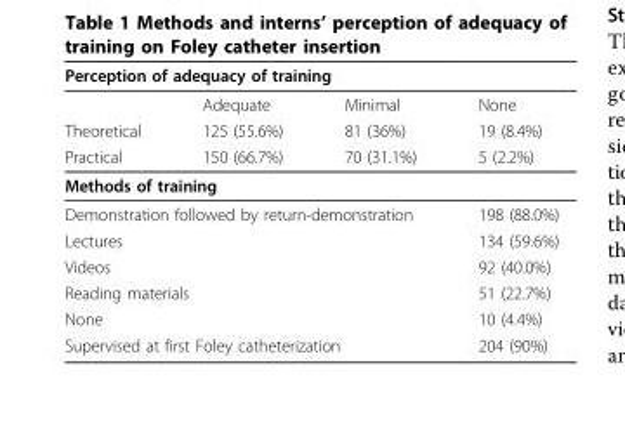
<table><thead><tr><td colspan="4">Perception of adequacy of training</td></tr><tr><td></td><td>Adequate</td><td>Minimal</td><td>None</td></tr></thead><tbody><tr><td>Theoretical</td><td>125 (55.6%)</td><td>81 (36%)</td><td>19 (8.4%)</td></tr><tr><td>Practical</td><td>150 (66.7%)</td><td>70 (31.1%)</td><td>5 (2.2%)</td></tr><tr><td colspan="4">Methods of training</td></tr><tr><td colspan="3">Demonstration followed by return-demonstration</td><td>198 (88.0%)</td></tr><tr><td colspan="3">Lectures</td><td>134 (59.6%)</td></tr><tr><td colspan="3">Videos</td><td>92 (40.0%)</td></tr><tr><td colspan="3">Reading materials</td><td>51 (22.7%)</td></tr><tr><td colspan="3">None</td><td>10 (4.4%)</td></tr><tr><td colspan="3">Supervised at first Foley catheterization</td><td>204 (90%)</td></tr></tbody></table>